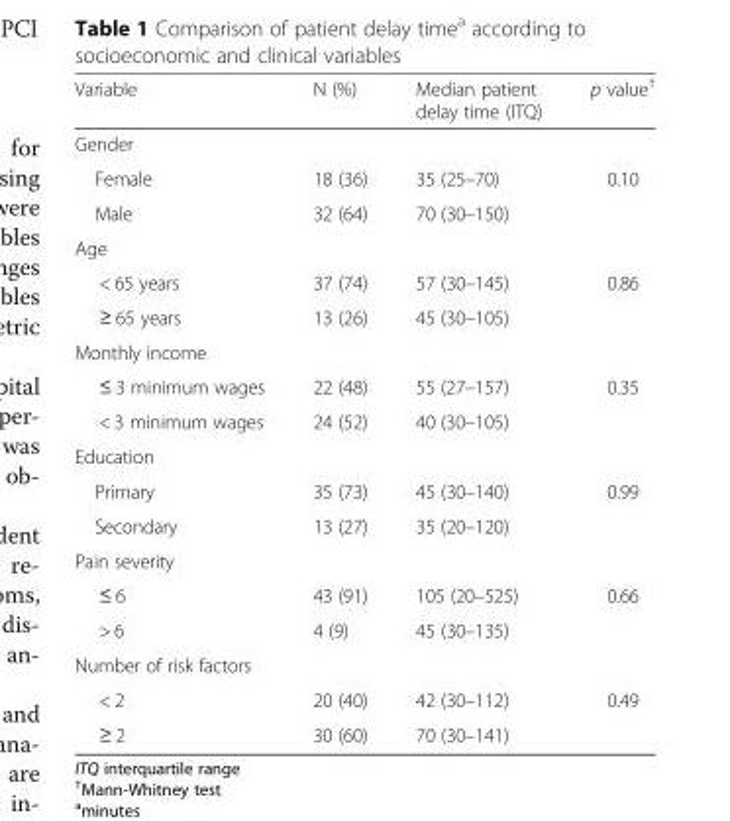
<table><thead><tr><td>Variable</td><td>N (%)</td><td>Median patient delay time (ITQ)</td><td>p value<sup>†</sup></td></tr></thead><tbody><tr><td colspan="4">Gender</td></tr><tr><td>Female</td><td>18 (36)</td><td>35 (25–70)</td><td>0.10</td></tr><tr><td>Male</td><td>32 (64)</td><td>70 (30–150)</td><td></td></tr><tr><td colspan="4">Age</td></tr><tr><td>&lt; 65 years</td><td>37 (74)</td><td>57 (30–145)</td><td>0.86</td></tr><tr><td>≥ 65 years</td><td>13 (26)</td><td>45 (30–105)</td><td></td></tr><tr><td colspan="4">Monthly income</td></tr><tr><td>≤ 3 minimum wages</td><td>22 (48)</td><td>55 (27–157)</td><td>0.35</td></tr><tr><td>&lt; 3 minimum wages</td><td>24 (52)</td><td>40 (30–105)</td><td></td></tr><tr><td colspan="4">Education</td></tr><tr><td>Primary</td><td>35 (73)</td><td>45 (30–140)</td><td>0.99</td></tr><tr><td>Secondary</td><td>13 (27)</td><td>35 (20–120)</td><td></td></tr><tr><td colspan="4">Pain severity</td></tr><tr><td>≤ 6</td><td>43 (91)</td><td>105 (20–525)</td><td>0.66</td></tr><tr><td>&gt; 6</td><td>4 (9)</td><td>45 (30–135)</td><td></td></tr><tr><td colspan="4">Number of risk factors</td></tr><tr><td>&lt; 2</td><td>20 (40)</td><td>42 (30–112)</td><td>0.49</td></tr><tr><td>≥ 2</td><td>30 (60)</td><td>70 (30–141)</td><td></td></tr></tbody></table>